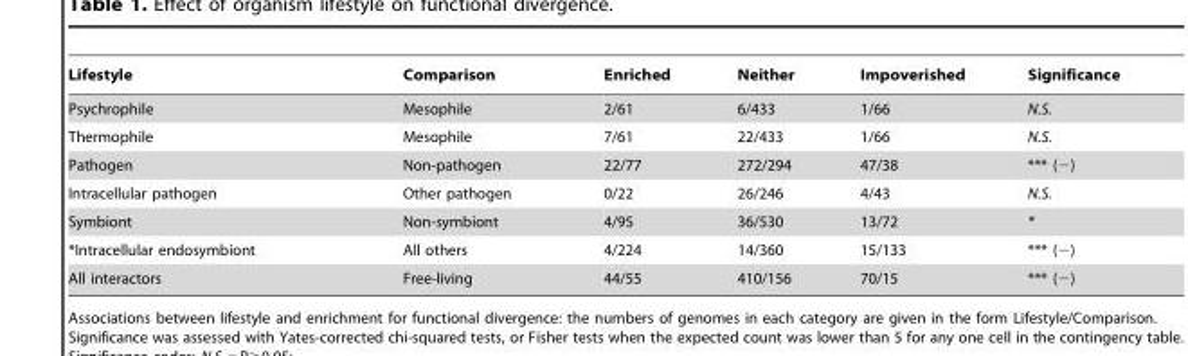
<table><thead><tr><td>Lifestyle</td><td>Comparison</td><td>Enriched</td><td>Neither</td><td>Impoverished</td><td>Significance</td></tr></thead><tbody><tr><td>Psychrophile</td><td>Mesophile</td><td>2/61</td><td>6/433</td><td>1/66</td><td>N.S.</td></tr><tr><td>Thermophile</td><td>Mesophile</td><td>7/61</td><td>22/433</td><td>1/66</td><td>N.S.</td></tr><tr><td>Pathogen</td><td>Non-pathogen</td><td>22/77</td><td>272/294</td><td>47/38</td><td>*** (−)</td></tr><tr><td>Intracellular pathogen</td><td>Other pathogen</td><td>0/22</td><td>26/246</td><td>4/43</td><td>N.S.</td></tr><tr><td>Symbiont</td><td>Non-symbiont</td><td>4/95</td><td>36/530</td><td>13/72</td><td>*</td></tr><tr><td>*Intracellular endosymbiont</td><td>All others</td><td>4/224</td><td>14/360</td><td>15/133</td><td>*** (−)</td></tr><tr><td>All interactors</td><td>Free-living</td><td>44/55</td><td>410/156</td><td>70/15</td><td>*** (−)</td></tr></tbody></table>